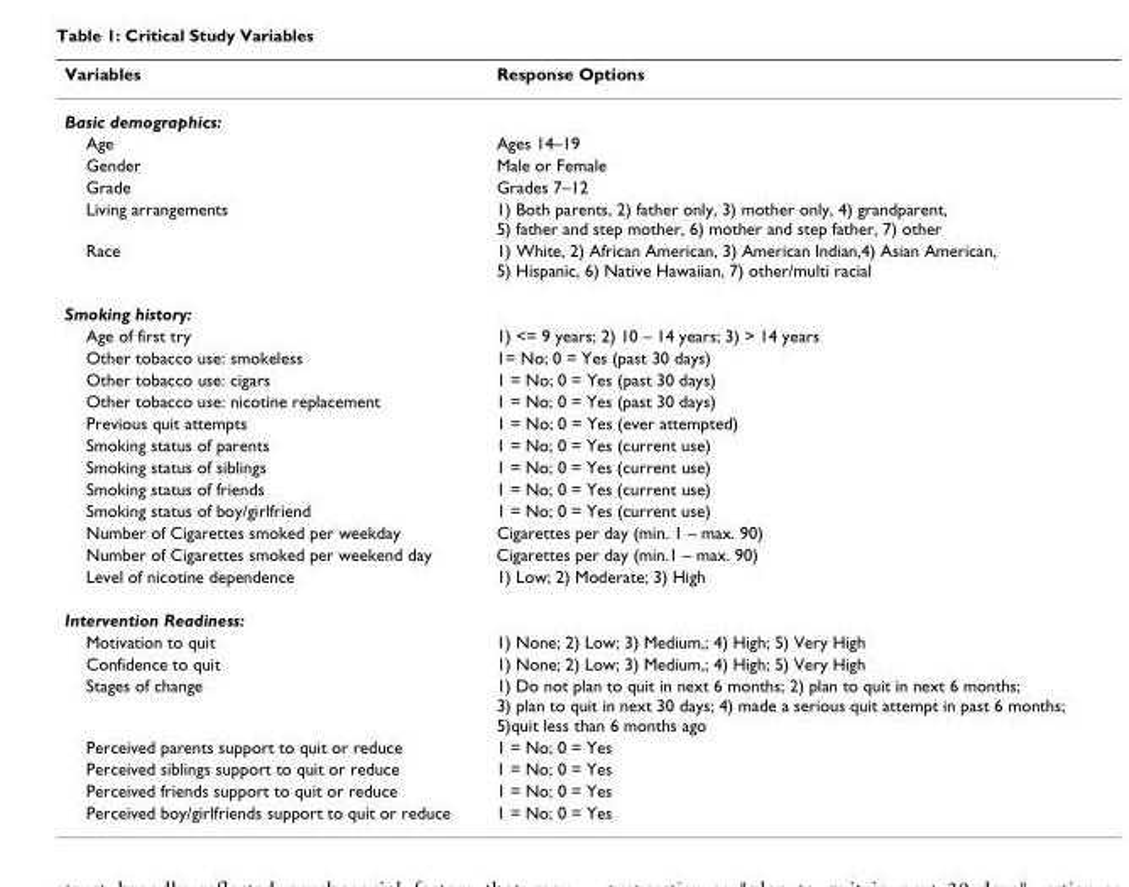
<table><thead><tr><td>Variables</td><td>Response Options</td></tr></thead><tbody><tr><td colspan="2">Basic demographics:</td></tr><tr><td>Age</td><td>Ages 14–19</td></tr><tr><td>Gender</td><td>Male or Female</td></tr><tr><td>Grade</td><td>Grades 7–12</td></tr><tr><td>Living arrangements</td><td>1) Both parents, 2) father only, 3) mother only, 4) grandparent, 5) father and step mother, 6) mother and step father, 7) other</td></tr><tr><td>Race</td><td>1) White, 2) African American, 3) American Indian,4) Asian American, 5) Hispanic, 6) Native Hawaiian, 7) other/multi racial</td></tr><tr><td colspan="2">Smoking history:</td></tr><tr><td>Age of first try</td><td>1) &lt;= 9 years; 2) 10 – 14 years; 3) &gt; 14 years</td></tr><tr><td>Other tobacco use: smokeless</td><td>1= No; 0 = Yes (past 30 days)</td></tr><tr><td>Other tobacco use: cigars</td><td>1 = No; 0 = Yes (past 30 days)</td></tr><tr><td>Other tobacco use: nicotine replacement</td><td>1 = No; 0 = Yes (past 30 days)</td></tr><tr><td>Previous quit attempts</td><td>1 = No; 0 = Yes (ever attempted)</td></tr><tr><td>Smoking status of parents</td><td>1 = No; 0 = Yes (current use)</td></tr><tr><td>Smoking status of siblings</td><td>1 = No; 0 = Yes (current use)</td></tr><tr><td>Smoking status of friends</td><td>1 = No; 0 = Yes (current use)</td></tr><tr><td>Smoking status of boy/girlfriend</td><td>1 = No; 0 = Yes (current use)</td></tr><tr><td>Number of Cigarettes smoked per weekday</td><td>Cigarettes per day (min. 1 – max. 90)</td></tr><tr><td>Number of Cigarettes smoked per weekend day</td><td>Cigarettes per day (min.1 – max. 90)</td></tr><tr><td>Level of nicotine dependence</td><td>1) Low; 2) Moderate; 3) High</td></tr><tr><td colspan="2">Intervention Readiness:</td></tr><tr><td>Motivation to quit</td><td>1) None; 2) Low; 3) Medium,; 4) High; 5) Very High</td></tr><tr><td>Confidence to quit</td><td>1) None; 2) Low; 3) Medium,; 4) High; 5) Very High</td></tr><tr><td>Stages of change</td><td>1) Do not plan to quit in next 6 months; 2) plan to quit in next 6 months; 3) plan to quit in next 30 days; 4) made a serious quit attempt in past 6 months; 5)quit less than 6 months ago</td></tr><tr><td>Perceived parents support to quit or reduce</td><td>1 = No; 0 = Yes</td></tr><tr><td>Perceived siblings support to quit or reduce</td><td>1 = No; 0 = Yes</td></tr><tr><td>Perceived friends support to quit or reduce</td><td>1 = No; 0 = Yes</td></tr><tr><td>Perceived boy/girlfriends support to quit or reduce</td><td>1 = No; 0 = Yes</td></tr></tbody></table>